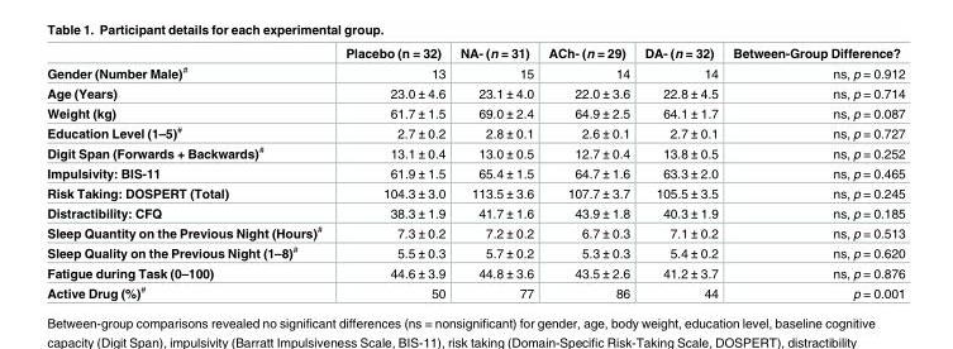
<table><thead><tr><td></td><td>Placebo (n = 32)</td><td>NA- (n = 31)</td><td>ACh- (n = 29)</td><td>DA- (n = 32)</td><td>Between-Group Difference?</td></tr></thead><tbody><tr><td>Gender (Number Male)<sup>#</sup></td><td>13</td><td>15</td><td>14</td><td>14</td><td>ns, p = 0.912</td></tr><tr><td>Age (Years)</td><td>23.0 ± 4.6</td><td>23.1 ± 4.0</td><td>22.0 ± 3.6</td><td>22.8 ± 4.5</td><td>ns, p = 0.714</td></tr><tr><td>Weight (kg)</td><td>61.7 ± 1.5</td><td>69.0 ± 2.4</td><td>64.9 ± 2.5</td><td>64.1 ± 1.7</td><td>ns, p = 0.087</td></tr><tr><td>Education Level (1–5)<sup>#</sup></td><td>2.7 ± 0.2</td><td>2.8 ± 0.1</td><td>2.6 ± 0.1</td><td>2.7 ± 0.1</td><td>ns, p = 0.727</td></tr><tr><td>Digit Span (Forwards + Backwards)<sup>#</sup></td><td>13.1 ± 0.4</td><td>13.0 ± 0.5</td><td>12.7 ± 0.4</td><td>13.8 ± 0.5</td><td>ns, p = 0.252</td></tr><tr><td>Impulsivity: BIS-11</td><td>61.9 ± 1.5</td><td>65.4 ± 1.5</td><td>64.7 ± 1.6</td><td>63.3 ± 2.0</td><td>ns, p = 0.465</td></tr><tr><td>Risk Taking: DOSPERT (Total)</td><td>104.3 ± 3.0</td><td>113.5 ± 3.6</td><td>107.7 ± 3.7</td><td>105.5 ± 3.5</td><td>ns, p = 0.245</td></tr><tr><td>Distractibility: CFQ</td><td>38.3 ± 1.9</td><td>41.7 ± 1.6</td><td>43.9 ± 1.8</td><td>40.3 ± 1.9</td><td>ns, p = 0.185</td></tr><tr><td>Sleep Quantity on the Previous Night (Hours)<sup>#</sup></td><td>7.3 ± 0.2</td><td>7.2 ± 0.2</td><td>6.7 ± 0.3</td><td>7.1 ± 0.2</td><td>ns, p = 0.513</td></tr><tr><td>Sleep Quality on the Previous Night (1–8)<sup>#</sup></td><td>5.5 ± 0.3</td><td>5.7 ± 0.2</td><td>5.3 ± 0.3</td><td>5.4 ± 0.2</td><td>ns, p = 0.620</td></tr><tr><td>Fatigue during Task (0–100)</td><td>44.6 ± 3.9</td><td>44.8 ± 3.6</td><td>43.5 ± 2.6</td><td>41.2 ± 3.7</td><td>ns, p = 0.876</td></tr><tr><td>Active Drug (%)<sup>#</sup></td><td>50</td><td>77</td><td>86</td><td>44</td><td>p = 0.001</td></tr></tbody></table>